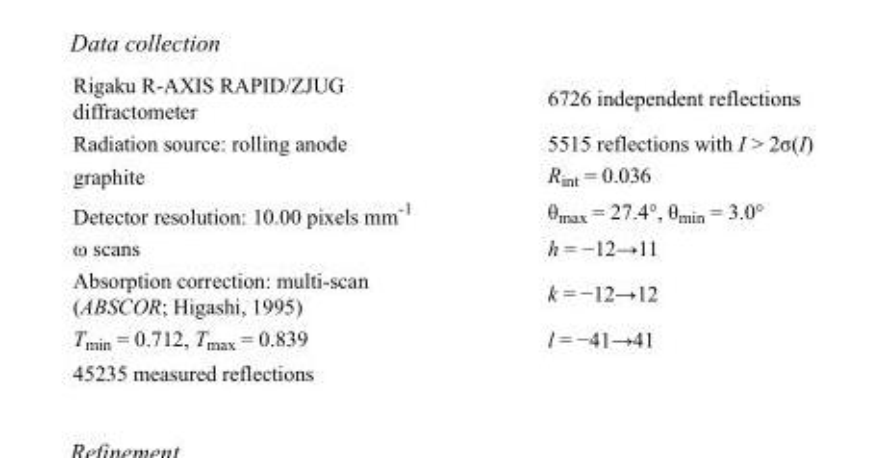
<table><tbody><tr><td>Rigaku R-AXIS RAPID/ZJUG diffractometer</td><td>6726 independent reflections</td></tr><tr><td>Radiation source: rolling anode</td><td>5515 reflections with I &gt; 2σ(I)</td></tr><tr><td>graphite</td><td>R<sub>int</sub> = 0.036</td></tr><tr><td>Detector resolution: 10.00 pixels mm<sup>-1</sup></td><td>θ<sub>max</sub> = 27.4°, θ<sub>min</sub> = 3.0°</td></tr><tr><td>ω scans</td><td>h = −12→11</td></tr><tr><td>Absorption correction: multi-scan (ABSCOR; Higashi, 1995)</td><td>k = −12→12</td></tr><tr><td>T<sub>min</sub> = 0.712, T<sub>max</sub> = 0.839</td><td>l = −41→41</td></tr><tr><td>45235 measured reflections</td><td></td></tr></tbody></table>